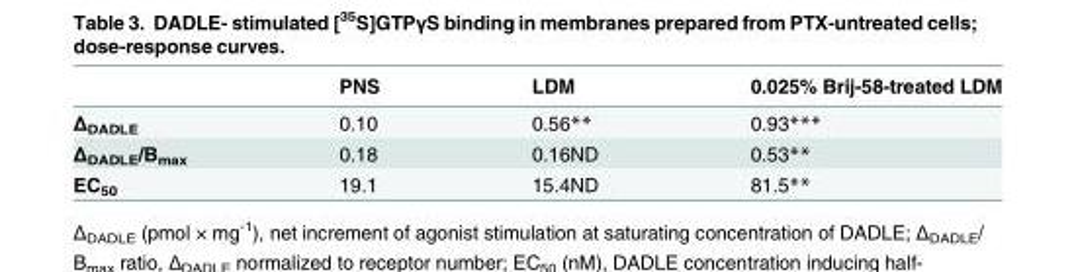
<table><thead><tr><td></td><td>PNS</td><td>LDM</td><td>0.025% Brij-58-treated LDM</td></tr></thead><tbody><tr><td>Δ<sub>DADLE</sub></td><td>0.10</td><td>0.56**</td><td>0.93***</td></tr><tr><td>Δ<sub>DADLE</sub>/B<sub>max</sub></td><td>0.18</td><td>0.16ND</td><td>0.53**</td></tr><tr><td>EC<sub>50</sub></td><td>19.1</td><td>15.4ND</td><td>81.5**</td></tr></tbody></table>